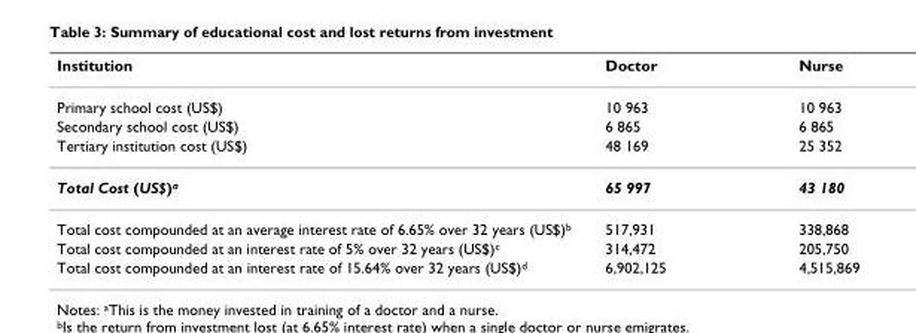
<table><thead><tr><td>Institution</td><td>Doctor</td><td>Nurse</td></tr></thead><tbody><tr><td>Primary school cost (US$)</td><td>10 963</td><td>10 963</td></tr><tr><td>Secondary school cost (US$)</td><td>6 865</td><td>6 865</td></tr><tr><td>Tertiary institution cost (US$)</td><td>48 169</td><td>25 352</td></tr><tr><td>Total Cost (US$)a</td><td>65 997</td><td>43 180</td></tr><tr><td>Total cost compounded at an average interest rate of 6.65% over 32 years (US$)b</td><td>517,931</td><td>338,868</td></tr><tr><td>Total cost compounded at an interest rate of 5% over 32 years (US$)c</td><td>314,472</td><td>205,750</td></tr><tr><td>Total cost compounded at an interest rate of 15.64% over 32 years (US$)d</td><td>6,902,125</td><td>4,515,869</td></tr></tbody></table>